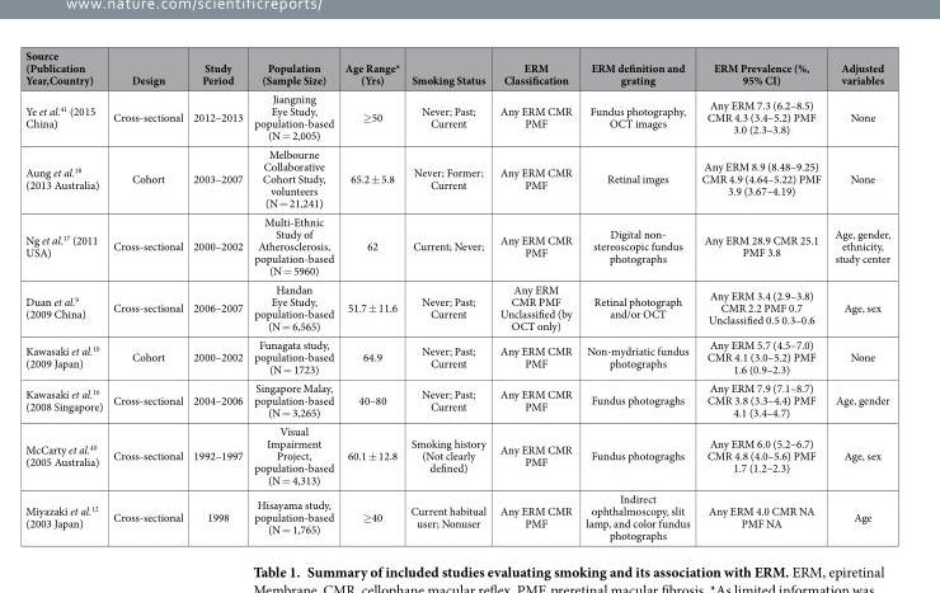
<table><thead><tr><td>Source (Publication Year,Country)</td><td>Design</td><td>Study Period</td><td>Population (Sample Size)</td><td>Age Range* (Yrs)</td><td>Smoking Status</td><td>ERM Classification</td><td>ERM definition and grating</td><td>ERM Prevalence (%, 95% CI)</td><td>Adjusted variables</td></tr></thead><tbody><tr><td>Ye et al.<sup>41</sup> (2015 China)</td><td>Cross-sectional</td><td>2012–2013</td><td>Jiangning Eye Study, population-based (N = 2,005)</td><td>≥ 50</td><td>Never; Past; Current</td><td>Any ERM CMR PMF</td><td>Fundus photography, OCT images</td><td>Any ERM 7.3 (6.2–8.5) CMR 4.3 (3.4–5.2) PMF 3.0 (2.3–3.8)</td><td>None</td></tr><tr><td>Aung et al.<sup>18</sup> (2013 Australia)</td><td>Cohort</td><td>2003–2007</td><td>Melbourne Collaborative Cohort Study, volunteers (N = 21,241)</td><td>65.2 ± 5.8</td><td>Never; Former; Current</td><td>Any ERM CMR PMF</td><td>Retinal imges</td><td>Any ERM 8.9 (8.48–9.25) CMR 4.9 (4.64–5.22) PMF 3.9 (3.67–4.19)</td><td>None</td></tr><tr><td>Ng et al.<sup>17</sup> (2011 USA)</td><td>Cross-sectional</td><td>2000–2002</td><td>Multi-Ethnic Study of Atherosclerosis, population-based (N = 5960)</td><td>62</td><td>Current; Never;</td><td>Any ERM CMR PMF</td><td>Digital non- stereoscopic fundus photographs</td><td>Any ERM 28.9 CMR 25.1 PMF 3.8</td><td>Age, gender, ethnicity, study center</td></tr><tr><td>Duan et al.<sup>9</sup> (2009 China)</td><td>Cross-sectional</td><td>2006–2007</td><td>Handan Eye Study, population-based (N = 6,565)</td><td>51.7 ± 11.6</td><td>Never; Past; Current</td><td>Any ERM CMR PMF Unclassified (by OCT only)</td><td>Retinal photograph and/or OCT</td><td>Any ERM 3.4 (2.9–3.8) CMR 2.2 PMF 0.7 Unclassified 0.5 0.3–0.6</td><td>Age, sex</td></tr><tr><td>Kawasaki et al.<sup>10</sup> (2009 Japan)</td><td>Cohort</td><td>2000–2002</td><td>Funagata study, population-based (N = 1723)</td><td>64.9</td><td>Never; Past; Current</td><td>Any ERM CMR PMF</td><td>Non-mydriatic fundus photographs</td><td>Any ERM 5.7 (4.5–7.0) CMR 4.1 (3.0–5.2) PMF 1.6 (0.9–2.3)</td><td>None</td></tr><tr><td>Kawasaki et al.<sup>16</sup> (2008 Singapore)</td><td>Cross-sectional</td><td>2004–2006</td><td>Singapore Malay, population-based (N = 3,265)</td><td>40–80</td><td>Never; Past; Current</td><td>Any ERM CMR PMF</td><td>Fundus photograghs</td><td>Any ERM 7.9 (7.1–8.7) CMR 3.8 (3.3–4.4) PMF 4.1 (3.4–4.7)</td><td>Age, gender</td></tr><tr><td>McCarty et al.<sup>40</sup> (2005 Australia)</td><td>Cross-sectional</td><td>1992–1997</td><td>Visual Impairment Project, population-based (N = 4,313)</td><td>60.1 ± 12.8</td><td>Smoking history (Not clearly defined)</td><td>Any ERM CMR PMF</td><td>Fundus photograghs</td><td>Any ERM 6.0 (5.2–6.7) CMR 4.8 (4.0–5.6) PMF 1.7 (1.2–2.3)</td><td>Age, sex</td></tr><tr><td>Miyazaki et al.<sup>12</sup> (2003 Japan)</td><td>Cross-sectional</td><td>1998</td><td>Hisayama study, population-based (N = 1,765)</td><td>≥ 40</td><td>Current habitual user; Nonuser</td><td>Any ERM CMR PMF</td><td>Indirect ophthalmoscopy, slit lamp, and color fundus photographs</td><td>Any ERM 4.0 CMR NA PMF NA</td><td>Age</td></tr></tbody></table>